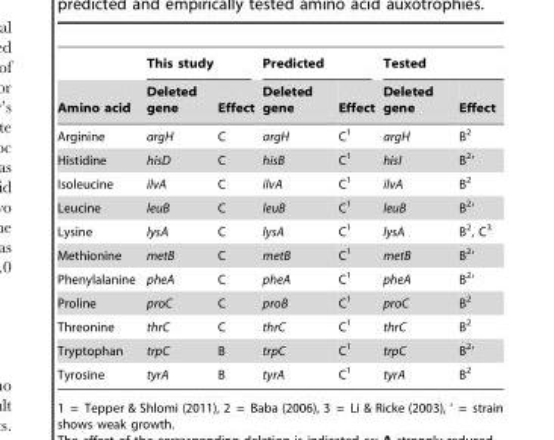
<table><thead><tr><td rowspan="2">Amino acid</td><td colspan="2">This study</td><td colspan="2">Predicted</td><td colspan="2">Tested</td></tr><tr><td>Deleted gene</td><td>Effect</td><td>Deleted gene</td><td>Effect</td><td>Deleted gene</td><td>Effect</td></tr></thead><tbody><tr><td>Arginine</td><td>argH</td><td>C</td><td>argH</td><td>C<sup>1</sup></td><td>argH</td><td>B<sup>2</sup></td></tr><tr><td>Histidine</td><td>hisD</td><td>C</td><td>hisB</td><td>C<sup>1</sup></td><td>hisI</td><td>B<sup>2</sup>’</td></tr><tr><td>Isoleucine</td><td>ilvA</td><td>C</td><td>ilvA</td><td>C<sup>1</sup></td><td>ilvA</td><td>B<sup>2</sup></td></tr><tr><td>Leucine</td><td>leuB</td><td>C</td><td>leuB</td><td>C<sup>1</sup></td><td>leuB</td><td>B<sup>2</sup>’</td></tr><tr><td>Lysine</td><td>lysA</td><td>C</td><td>lysA</td><td>C<sup>1</sup></td><td>lysA</td><td>B<sup>2</sup>, C<sup>3</sup></td></tr><tr><td>Methionine</td><td>metB</td><td>C</td><td>metB</td><td>C<sup>1</sup></td><td>metB</td><td>B<sup>2</sup>’</td></tr><tr><td>Phenylalanine</td><td>pheA</td><td>C</td><td>pheA</td><td>C<sup>1</sup></td><td>pheA</td><td>B<sup>2</sup>’</td></tr><tr><td>Proline</td><td>proC</td><td>C</td><td>proB</td><td>C<sup>1</sup></td><td>proC</td><td>B<sup>2</sup></td></tr><tr><td>Threonine</td><td>thrC</td><td>C</td><td>thrC</td><td>C<sup>1</sup></td><td>thrC</td><td>B<sup>2</sup></td></tr><tr><td>Tryptophan</td><td>trpC</td><td>B</td><td>trpC</td><td>C<sup>1</sup></td><td>trpC</td><td>B<sup>2</sup>’</td></tr><tr><td>Tyrosine</td><td>tyrA</td><td>B</td><td>tyrA</td><td>C<sup>1</sup></td><td>tyrA</td><td>B<sup>2</sup></td></tr></tbody></table>